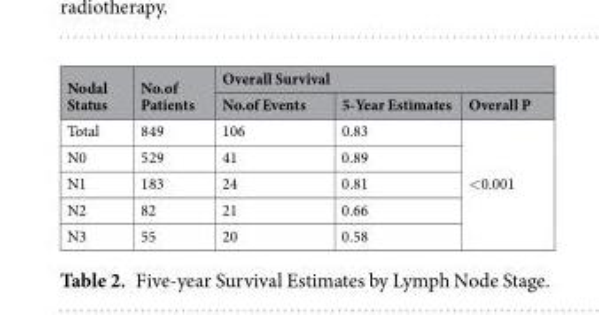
<table><thead><tr><td rowspan="2">Nodal Status</td><td rowspan="2">No.of Patients</td><td colspan="3">Overall Survival</td></tr><tr><td>No.of Events</td><td>5-Year Estimates</td><td>Overall P</td></tr></thead><tbody><tr><td>Total</td><td>849</td><td>106</td><td>0.83</td><td rowspan="5">&lt;0.001</td></tr><tr><td>N0</td><td>529</td><td>41</td><td>0.89</td></tr><tr><td>N1</td><td>183</td><td>24</td><td>0.81</td></tr><tr><td>N2</td><td>82</td><td>21</td><td>0.66</td></tr><tr><td>N3</td><td>55</td><td>20</td><td>0.58</td></tr></tbody></table>